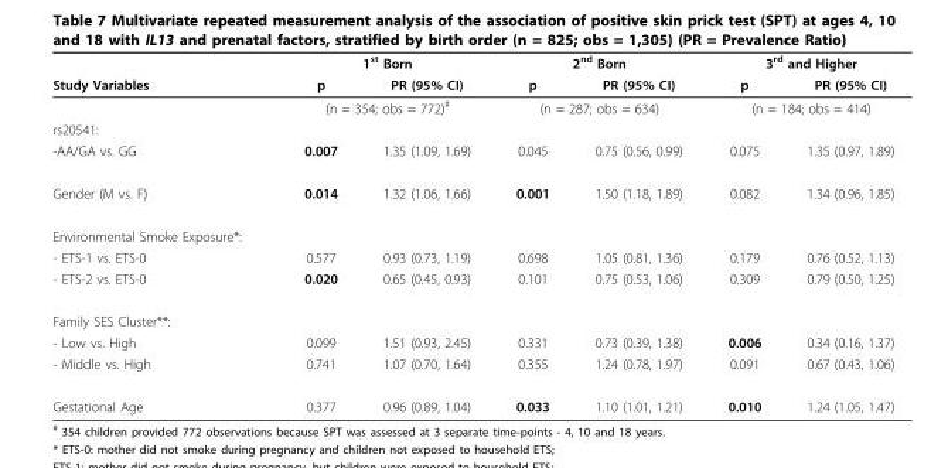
<table><thead><tr><td rowspan="2">Study Variables</td><td colspan="2">1<sup>st</sup> Born</td><td colspan="2">2<sup>nd</sup> Born</td><td colspan="2">3<sup>rd</sup> and Higher</td></tr><tr><td>p</td><td>PR (95% CI)</td><td>p</td><td>PR (95% CI)</td><td>p</td><td>PR (95% CI)</td></tr></thead><tbody><tr><td></td><td colspan="2">(n = 354; obs = 772)<sup>#</sup></td><td colspan="2">(n = 287; obs = 634)</td><td colspan="2">(n = 184; obs = 414)</td></tr><tr><td colspan="7">rs20541:</td></tr><tr><td>-AA/GA vs. GG</td><td>0.007</td><td>1.35 (1.09, 1.69)</td><td>0.045</td><td>0.75 (0.56, 0.99)</td><td>0.075</td><td>1.35 (0.97, 1.89)</td></tr><tr><td>Gender (M vs. F)</td><td>0.014</td><td>1.32 (1.06, 1.66)</td><td>0.001</td><td>1.50 (1.18, 1.89)</td><td>0.082</td><td>1.34 (0.96, 1.85)</td></tr><tr><td colspan="7">Environmental Smoke Exposure*:</td></tr><tr><td>- ETS-1 vs. ETS-0</td><td>0.577</td><td>0.93 (0.73, 1.19)</td><td>0.698</td><td>1.05 (0.81, 1.36)</td><td>0.179</td><td>0.76 (0.52, 1.13)</td></tr><tr><td>- ETS-2 vs. ETS-0</td><td>0.020</td><td>0.65 (0.45, 0.93)</td><td>0.101</td><td>0.75 (0.53, 1.06)</td><td>0.309</td><td>0.79 (0.50, 1.25)</td></tr><tr><td colspan="7">Family SES Cluster**:</td></tr><tr><td>- Low vs. High</td><td>0.099</td><td>1.51 (0.93, 2.45)</td><td>0.331</td><td>0.73 (0.39, 1.38)</td><td>0.006</td><td>0.34 (0.16, 1.37)</td></tr><tr><td>- Middle vs. High</td><td>0.741</td><td>1.07 (0.70, 1.64)</td><td>0.355</td><td>1.24 (0.78, 1.97)</td><td>0.091</td><td>0.67 (0.43, 1.06)</td></tr><tr><td>Gestational Age</td><td>0.377</td><td>0.96 (0.89, 1.04)</td><td>0.033</td><td>1.10 (1.01, 1.21)</td><td>0.010</td><td>1.24 (1.05, 1.47)</td></tr></tbody></table>